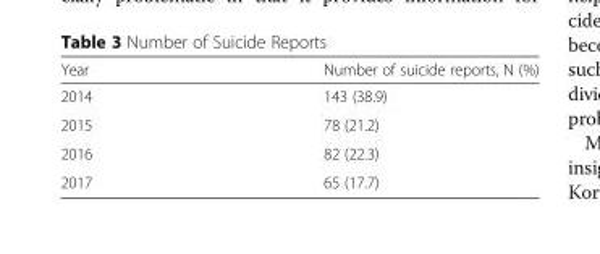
<table><thead><tr><td>Year</td><td>Number of suicide reports, N (%)</td></tr></thead><tbody><tr><td>2014</td><td>143 (38.9)</td></tr><tr><td>2015</td><td>78 (21.2)</td></tr><tr><td>2016</td><td>82 (22.3)</td></tr><tr><td>2017</td><td>65 (17.7)</td></tr></tbody></table>